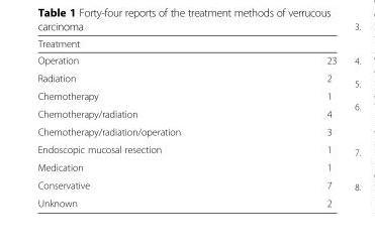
<table><thead><tr><td>Treatment</td><td></td></tr></thead><tbody><tr><td>Operation</td><td>23</td></tr><tr><td>Radiation</td><td>2</td></tr><tr><td>Chemotherapy</td><td>1</td></tr><tr><td>Chemotherapy/radiation</td><td>4</td></tr><tr><td>Chemotherapy/radiation/operation</td><td>3</td></tr><tr><td>Endoscopic mucosal resection</td><td>1</td></tr><tr><td>Medication</td><td>1</td></tr><tr><td>Conservative</td><td>7</td></tr><tr><td>Unknown</td><td>2</td></tr></tbody></table>